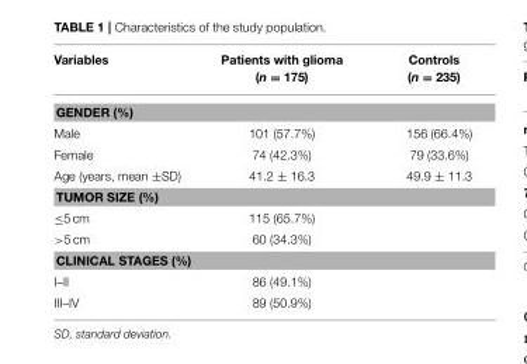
<table><thead><tr><td>Variables</td><td>Patients with glioma (n = 175)</td><td>Controls (n = 235)</td></tr></thead><tbody><tr><td colspan="3">GENDER (%)</td></tr><tr><td>Male</td><td>101 (57.7%)</td><td>156 (66.4%)</td></tr><tr><td>Female</td><td>74 (42.3%)</td><td>79 (33.6%)</td></tr><tr><td>Age (years, mean ±SD)</td><td>41.2 ± 16.3</td><td>49.9 ± 11.3</td></tr><tr><td colspan="3">TUMOR SIZE (%)</td></tr><tr><td>≤5 cm</td><td>115 (65.7%)</td><td></td></tr><tr><td>&gt;5 cm</td><td>60 (34.3%)</td><td></td></tr><tr><td colspan="3">CLINICAL STAGES (%)</td></tr><tr><td>I–II</td><td>86 (49.1%)</td><td></td></tr><tr><td>III–IV</td><td>89 (50.9%)</td><td></td></tr></tbody></table>